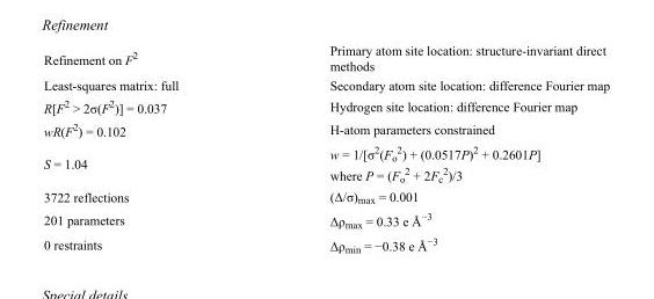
<table><tbody><tr><td>Refinement on F<sup>2</sup></td><td>Primary atom site location: structure-invariant direct methods</td></tr><tr><td>Least-squares matrix: full</td><td>Secondary atom site location: difference Fourier map</td></tr><tr><td>R[F<sup>2</sup> &gt; 2σ(F<sup>2</sup>)] = 0.037</td><td>Hydrogen site location: difference Fourier map</td></tr><tr><td>wR(F<sup>2</sup>) = 0.102</td><td>H-atom parameters constrained</td></tr><tr><td>S = 1.04</td><td>w = 1/[σ<sup>2</sup>(F<sub>o</sub> <sup>2</sup>) + (0.0517P)<sup>2</sup> + 0.2601P] where P = (F<sub>o</sub> <sup>2</sup> + 2F<sub>c</sub> <sup>2</sup>)/3</td></tr><tr><td>3722 reflections</td><td>(Δ/σ)<sub>max</sub> = 0.001</td></tr><tr><td>201 parameters</td><td>Δρ<sub>max</sub> = 0.33 e Å<sup>−3</sup></td></tr><tr><td>0 restraints</td><td>Δρ<sub>min</sub> = −0.38 e Å<sup>−3</sup></td></tr></tbody></table>